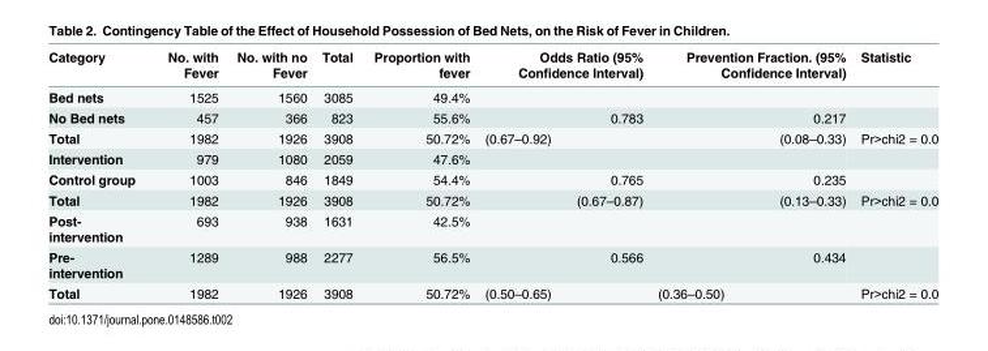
<table><thead><tr><td>Category</td><td>No. with Fever</td><td>No. with no Fever</td><td>Total</td><td>Proportion with fever</td><td>Odds Ratio (95% Confidence Interval)</td><td>Prevention Fraction. (95% Confidence Interval)</td><td>Statistic</td></tr></thead><tbody><tr><td>Bed nets</td><td>1525</td><td>1560</td><td>3085</td><td>49.4%</td><td></td><td></td><td></td></tr><tr><td>No Bed nets</td><td>457</td><td>366</td><td>823</td><td>55.6%</td><td>0.783</td><td>0.217</td><td></td></tr><tr><td>Total</td><td>1982</td><td>1926</td><td>3908</td><td>50.72%</td><td>(0.67–0.92)</td><td>(0.08–0.33)</td><td>Pr&gt;chi2 = 0.0</td></tr><tr><td>Intervention</td><td>979</td><td>1080</td><td>2059</td><td>47.6%</td><td></td><td></td><td></td></tr><tr><td>Control group</td><td>1003</td><td>846</td><td>1849</td><td>54.4%</td><td>0.765</td><td>0.235</td><td></td></tr><tr><td>Total</td><td>1982</td><td>1926</td><td>3908</td><td>50.72%</td><td>(0.67–0.87)</td><td>(0.13–0.33)</td><td>Pr&gt;chi2 = 0.0</td></tr><tr><td>Post- intervention</td><td>693</td><td>938</td><td>1631</td><td>42.5%</td><td></td><td></td><td></td></tr><tr><td>Pre- intervention</td><td>1289</td><td>988</td><td>2277</td><td>56.5%</td><td>0.566</td><td>0.434</td><td></td></tr><tr><td>Total</td><td>1982</td><td>1926</td><td>3908</td><td>50.72%</td><td>(0.50–0.65)</td><td>(0.36–0.50)</td><td>Pr&gt;chi2 = 0.0</td></tr></tbody></table>